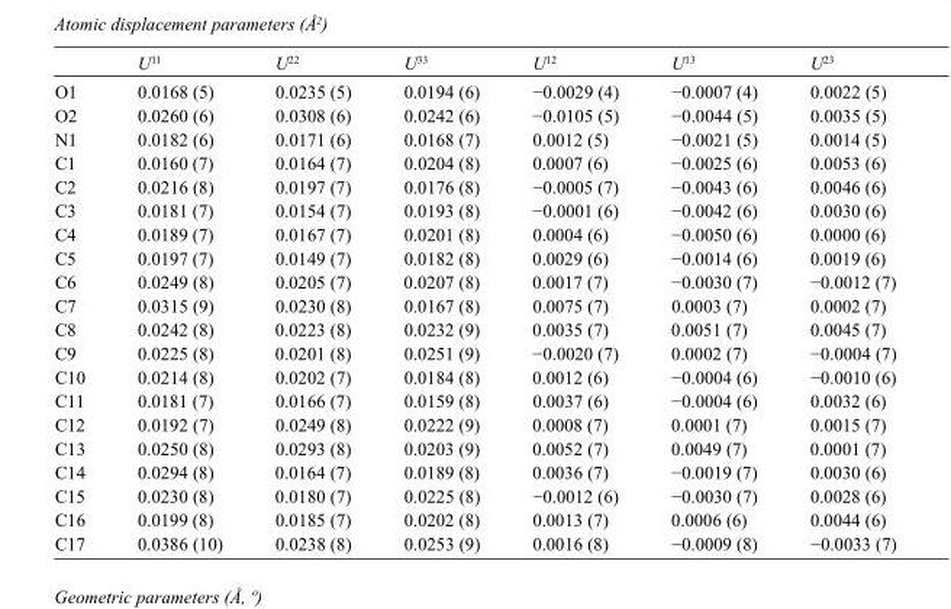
<table><thead><tr><td></td><td>U<sup>11</sup></td><td>U<sup>22</sup></td><td>U<sup>33</sup></td><td>U<sup>12</sup></td><td>U<sup>13</sup></td><td>U<sup>23</sup></td></tr></thead><tbody><tr><td>O1</td><td>0.0168 (5)</td><td>0.0235 (5)</td><td>0.0194 (6)</td><td>−0.0029 (4)</td><td>−0.0007 (4)</td><td>0.0022 (5)</td></tr><tr><td>O2</td><td>0.0260 (6)</td><td>0.0308 (6)</td><td>0.0242 (6)</td><td>−0.0105 (5)</td><td>−0.0044 (5)</td><td>0.0035 (5)</td></tr><tr><td>N1</td><td>0.0182 (6)</td><td>0.0171 (6)</td><td>0.0168 (7)</td><td>0.0012 (5)</td><td>−0.0021 (5)</td><td>0.0014 (5)</td></tr><tr><td>C1</td><td>0.0160 (7)</td><td>0.0164 (7)</td><td>0.0204 (8)</td><td>0.0007 (6)</td><td>−0.0025 (6)</td><td>0.0053 (6)</td></tr><tr><td>C2</td><td>0.0216 (8)</td><td>0.0197 (7)</td><td>0.0176 (8)</td><td>−0.0005 (7)</td><td>−0.0043 (6)</td><td>0.0046 (6)</td></tr><tr><td>C3</td><td>0.0181 (7)</td><td>0.0154 (7)</td><td>0.0193 (8)</td><td>−0.0001 (6)</td><td>−0.0042 (6)</td><td>0.0030 (6)</td></tr><tr><td>C4</td><td>0.0189 (7)</td><td>0.0167 (7)</td><td>0.0201 (8)</td><td>0.0004 (6)</td><td>−0.0050 (6)</td><td>0.0000 (6)</td></tr><tr><td>C5</td><td>0.0197 (7)</td><td>0.0149 (7)</td><td>0.0182 (8)</td><td>0.0029 (6)</td><td>−0.0014 (6)</td><td>0.0019 (6)</td></tr><tr><td>C6</td><td>0.0249 (8)</td><td>0.0205 (7)</td><td>0.0207 (8)</td><td>0.0017 (7)</td><td>−0.0030 (7)</td><td>−0.0012 (7)</td></tr><tr><td>C7</td><td>0.0315 (9)</td><td>0.0230 (8)</td><td>0.0167 (8)</td><td>0.0075 (7)</td><td>0.0003 (7)</td><td>0.0002 (7)</td></tr><tr><td>C8</td><td>0.0242 (8)</td><td>0.0223 (8)</td><td>0.0232 (9)</td><td>0.0035 (7)</td><td>0.0051 (7)</td><td>0.0045 (7)</td></tr><tr><td>C9</td><td>0.0225 (8)</td><td>0.0201 (8)</td><td>0.0251 (9)</td><td>−0.0020 (7)</td><td>0.0002 (7)</td><td>−0.0004 (7)</td></tr><tr><td>C10</td><td>0.0214 (8)</td><td>0.0202 (7)</td><td>0.0184 (8)</td><td>0.0012 (6)</td><td>−0.0004 (6)</td><td>−0.0010 (6)</td></tr><tr><td>C11</td><td>0.0181 (7)</td><td>0.0166 (7)</td><td>0.0159 (8)</td><td>0.0037 (6)</td><td>−0.0004 (6)</td><td>0.0032 (6)</td></tr><tr><td>C12</td><td>0.0192 (7)</td><td>0.0249 (8)</td><td>0.0222 (9)</td><td>0.0008 (7)</td><td>0.0001 (7)</td><td>0.0015 (7)</td></tr><tr><td>C13</td><td>0.0250 (8)</td><td>0.0293 (8)</td><td>0.0203 (9)</td><td>0.0052 (7)</td><td>0.0049 (7)</td><td>0.0001 (7)</td></tr><tr><td>C14</td><td>0.0294 (8)</td><td>0.0164 (7)</td><td>0.0189 (8)</td><td>0.0036 (7)</td><td>−0.0019 (7)</td><td>0.0030 (6)</td></tr><tr><td>C15</td><td>0.0230 (8)</td><td>0.0180 (7)</td><td>0.0225 (8)</td><td>−0.0012 (6)</td><td>−0.0030 (7)</td><td>0.0028 (6)</td></tr><tr><td>C16</td><td>0.0199 (8)</td><td>0.0185 (7)</td><td>0.0202 (8)</td><td>0.0013 (7)</td><td>0.0006 (6)</td><td>0.0044 (6)</td></tr><tr><td>C17</td><td>0.0386 (10)</td><td>0.0238 (8)</td><td>0.0253 (9)</td><td>0.0016 (8)</td><td>−0.0009 (8)</td><td>−0.0033 (7)</td></tr></tbody></table>